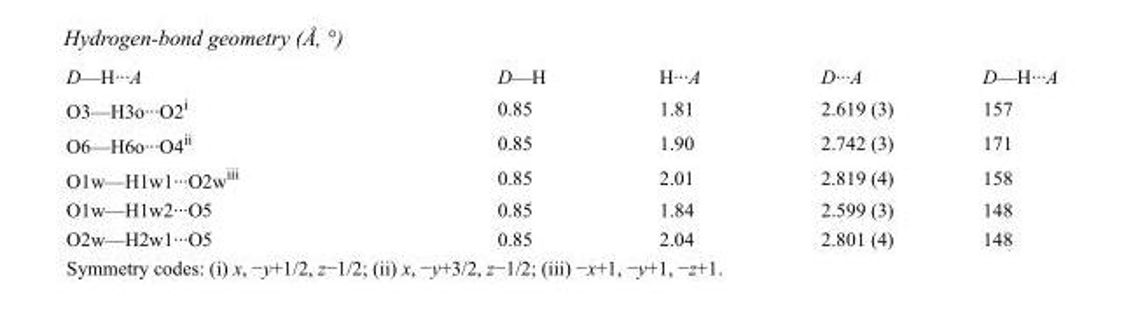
<table><tbody><tr><td>D—H···A</td><td>D—H</td><td>H···A</td><td>D···A</td><td>D—H···A</td></tr><tr><td>O3—H3o···O2<sup>i</sup></td><td>0.85</td><td>1.81</td><td>2.619 (3)</td><td>157</td></tr><tr><td>O6—H6o···O4<sup>ii</sup></td><td>0.85</td><td>1.90</td><td>2.742 (3)</td><td>171</td></tr><tr><td>O1w—H1w1···O2w<sup>iii</sup></td><td>0.85</td><td>2.01</td><td>2.819 (4)</td><td>158</td></tr><tr><td>O1w—H1w2···O5</td><td>0.85</td><td>1.84</td><td>2.599 (3)</td><td>148</td></tr><tr><td>O2w—H2w1···O5</td><td>0.85</td><td>2.04</td><td>2.801 (4)</td><td>148</td></tr></tbody></table>